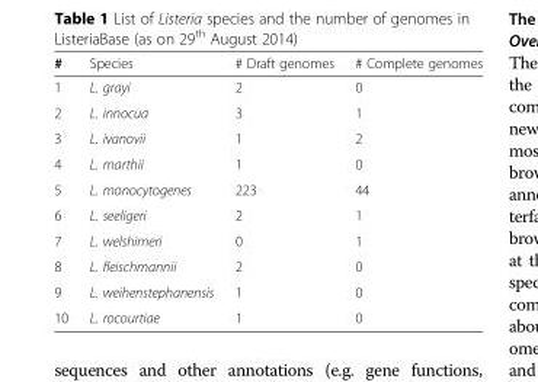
<table><thead><tr><td>#</td><td>Species</td><td># Draft genomes</td><td># Complete genomes</td></tr></thead><tbody><tr><td>1</td><td>L. grayi</td><td>2</td><td>0</td></tr><tr><td>2</td><td>L. innocua</td><td>3</td><td>1</td></tr><tr><td>3</td><td>L. ivanovii</td><td>1</td><td>2</td></tr><tr><td>4</td><td>L. marthii</td><td>1</td><td>0</td></tr><tr><td>5</td><td>L. monocytogenes</td><td>223</td><td>44</td></tr><tr><td>6</td><td>L. seeligeri</td><td>2</td><td>1</td></tr><tr><td>7</td><td>L. welshimeri</td><td>0</td><td>1</td></tr><tr><td>8</td><td>L. fleischmannii</td><td>2</td><td>0</td></tr><tr><td>9</td><td>L. weihenstephanensis</td><td>1</td><td>0</td></tr><tr><td>10</td><td>L. rocourtiae</td><td>1</td><td>0</td></tr></tbody></table>